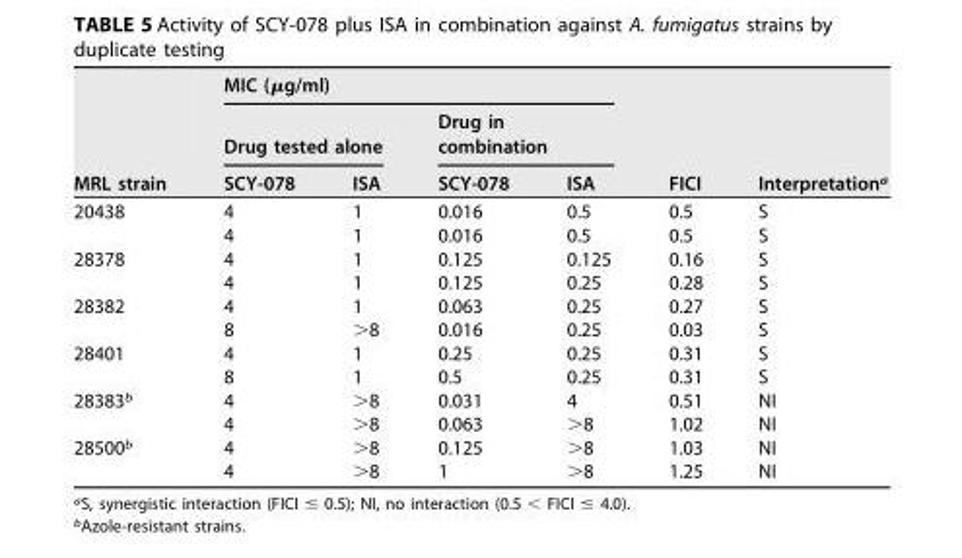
<table><thead><tr><td rowspan="3">MRL strain</td><td colspan="4">MIC (μg/ml)</td><td rowspan="3">FICI</td><td rowspan="3">Interpretation<sup>a</sup></td></tr><tr><td colspan="2">Drug tested alone</td><td colspan="2">Drug in combination</td></tr><tr><td>SCY-078</td><td>ISA</td><td>SCY-078</td><td>ISA</td></tr></thead><tbody><tr><td rowspan="2">20438</td><td>4</td><td>1</td><td>0.016</td><td>0.5</td><td>0.5</td><td>S</td></tr><tr><td>4</td><td>1</td><td>0.016</td><td>0.5</td><td>0.5</td><td>S</td></tr><tr><td rowspan="2">28378</td><td>4</td><td>1</td><td>0.125</td><td>0.125</td><td>0.16</td><td>S</td></tr><tr><td>4</td><td>1</td><td>0.125</td><td>0.25</td><td>0.28</td><td>S</td></tr><tr><td rowspan="2">28382</td><td>4</td><td>1</td><td>0.063</td><td>0.25</td><td>0.27</td><td>S</td></tr><tr><td>8</td><td>&gt;8</td><td>0.016</td><td>0.25</td><td>0.03</td><td>S</td></tr><tr><td rowspan="2">28401</td><td>4</td><td>1</td><td>0.25</td><td>0.25</td><td>0.31</td><td>S</td></tr><tr><td>8</td><td>1</td><td>0.5</td><td>0.25</td><td>0.31</td><td>S</td></tr><tr><td rowspan="2">28383<sup>b</sup></td><td>4</td><td>&gt;8</td><td>0.031</td><td>4</td><td>0.51</td><td>NI</td></tr><tr><td>4</td><td>&gt;8</td><td>0.063</td><td>&gt;8</td><td>1.02</td><td>NI</td></tr><tr><td rowspan="2">28500<sup>b</sup></td><td>4</td><td>&gt;8</td><td>0.125</td><td>&gt;8</td><td>1.03</td><td>NI</td></tr><tr><td>4</td><td>&gt;8</td><td>1</td><td>&gt;8</td><td>1.25</td><td>NI</td></tr></tbody></table>